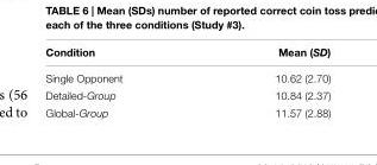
<table><thead><tr><td>Condition</td><td>Mean (SD)</td></tr></thead><tbody><tr><td>Single Opponent</td><td>10.62 (2.70)</td></tr><tr><td>Detailed-Group</td><td>10.84 (2.37)</td></tr><tr><td>Global-Group</td><td>11.57 (2.88)</td></tr></tbody></table>